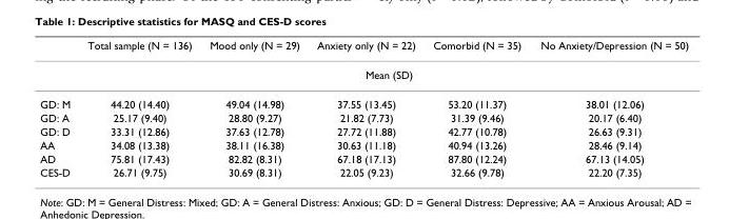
<table><thead><tr><td></td><td>Total sample (N = 136)</td><td>Mood only (N = 29)</td><td>Anxiety only (N = 22)</td><td>Comorbid (N = 35)</td><td>No Anxiety/Depression (N = 50)</td></tr></thead><tbody><tr><td></td><td colspan="5">Mean (SD)</td></tr><tr><td>GD: M</td><td>44.20 (14.40)</td><td>49.04 (14.98)</td><td>37.55 (13.45)</td><td>53.20 (11.37)</td><td>38.01 (12.06)</td></tr><tr><td>GD: A</td><td>25.17 (9.40)</td><td>28.80 (9.27)</td><td>21.82 (7.73)</td><td>31.39 (9.46)</td><td>20.17 (6.40)</td></tr><tr><td>GD: D</td><td>33.31 (12.86)</td><td>37.63 (12.78)</td><td>27.72 (11.88)</td><td>42.77 (10.78)</td><td>26.63 (9.31)</td></tr><tr><td>AA</td><td>34.08 (13.38)</td><td>38.11 (16.38)</td><td>30.63 (11.18)</td><td>40.94 (13.26)</td><td>28.46 (9.14)</td></tr><tr><td>AD</td><td>75.81 (17.43)</td><td>82.82 (8.31)</td><td>67.18 (17.13)</td><td>87.80 (12.24)</td><td>67.13 (14.05)</td></tr><tr><td>CES-D</td><td>26.71 (9.75)</td><td>30.69 (8.31)</td><td>22.05 (9.23)</td><td>32.66 (9.78)</td><td>22.20 (7.35)</td></tr></tbody></table>